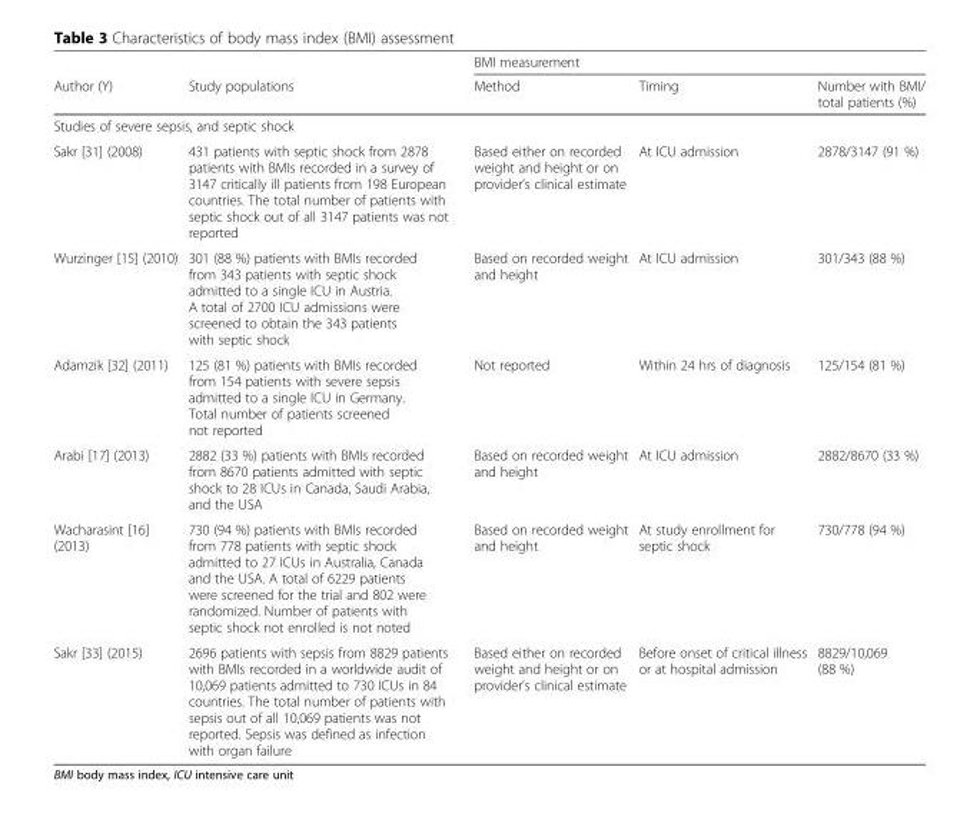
<table><thead><tr><td rowspan="2">Author (Y)</td><td rowspan="2">Study populations</td><td colspan="3">BMI measurement</td></tr><tr><td>Method</td><td>Timing</td><td>Number with BMI/ total patients (%)</td></tr></thead><tbody><tr><td colspan="5">Studies of severe sepsis, and septic shock</td></tr><tr><td>Sakr [31] (2008)</td><td>431 patients with septic shock from 2878 patients with BMIs recorded in a survey of 3147 critically ill patients from 198 European countries. The total number of patients with septic shock out of all 3147 patients was not reported</td><td>Based either on recorded weight and height or on provider’s clinical estimate</td><td>At ICU admission</td><td>2878/3147 (91 %)</td></tr><tr><td>Wurzinger [15] (2010)</td><td>301 (88 %) patients with BMIs recorded from 343 patients with septic shock admitted to a single ICU in Austria. A total of 2700 ICU admissions were screened to obtain the 343 patients with septic shock</td><td>Based on recorded weight and height</td><td>At ICU admission</td><td>301/343 (88 %)</td></tr><tr><td>Adamzik [32] (2011)</td><td>125 (81 %) patients with BMIs recorded from 154 patients with severe sepsis admitted to a single ICU in Germany. Total number of patients screened not reported</td><td>Not reported</td><td>Within 24 hrs of diagnosis</td><td>125/154 (81 %)</td></tr><tr><td>Arabi [17] (2013)</td><td>2882 (33 %) patients with BMIs recorded from 8670 patients admitted with septic shock to 28 ICUs in Canada, Saudi Arabia, and the USA</td><td>Based on recorded weight and height</td><td>At ICU admission</td><td>2882/8670 (33 %)</td></tr><tr><td>Wacharasint [16] (2013)</td><td>730 (94 %) patients with BMIs recorded from 778 patients with septic shock admitted to 27 ICUs in Australia, Canada and the USA. A total of 6229 patients were screened for the trial and 802 were randomized. Number of patients with septic shock not enrolled is not noted</td><td>Based on recorded weight and height</td><td>At study enrollment for septic shock</td><td>730/778 (94 %)</td></tr><tr><td>Sakr [33] (2015)</td><td>2696 patients with sepsis from 8829 patients with BMIs recorded in a worldwide audit of 10,069 patients admitted to 730 ICUs in 84 countries. The total number of patients with sepsis out of all 10,069 patients was not reported. Sepsis was defined as infection with organ failure</td><td>Based either on recorded weight and height or on provider’s clinical estimate</td><td>Before onset of critical illness or at hospital admission</td><td>8829/10,069 (88 %)</td></tr></tbody></table>